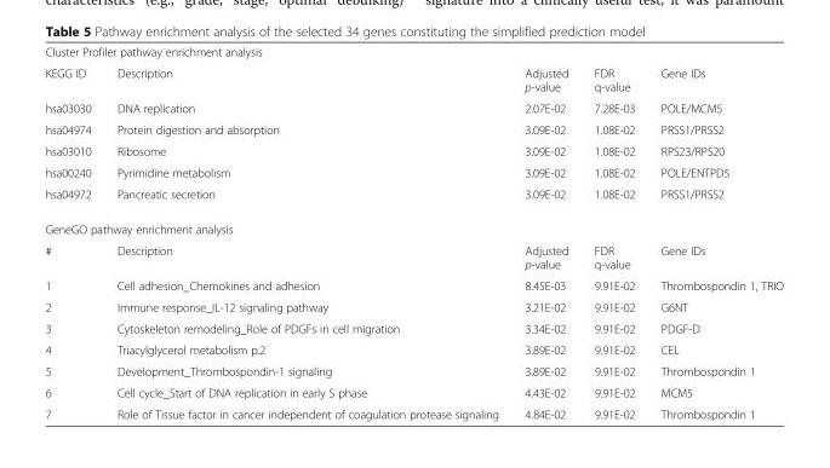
<table><tbody><tr><td colspan="5">Cluster Profiler pathway enrichment analysis</td></tr><tr><td>KEGG ID</td><td>Description</td><td>Adjusted p-value</td><td>FDR q-value</td><td>Gene IDs</td></tr><tr><td>hsa03030</td><td>DNA replication</td><td>2.07E-02</td><td>7.28E-03</td><td>POLE/MCM5</td></tr><tr><td>hsa04974</td><td>Protein digestion and absorption</td><td>3.09E-02</td><td>1.08E-02</td><td>PRSS1/PRSS2</td></tr><tr><td>hsa03010</td><td>Ribosome</td><td>3.09E-02</td><td>1.08E-02</td><td>RPS23/RPS20</td></tr><tr><td>hsa00240</td><td>Pyrimidine metabolism</td><td>3.09E-02</td><td>1.08E-02</td><td>POLE/ENTPD5</td></tr><tr><td>hsa04972</td><td>Pancreatic secretion</td><td>3.09E-02</td><td>1.08E-02</td><td>PRSS1/PRSS2</td></tr><tr><td colspan="5">GeneGO pathway enrichment analysis</td></tr><tr><td>#</td><td>Description</td><td>Adjusted p-value</td><td>FDR q-value</td><td>Gene IDs</td></tr><tr><td>1</td><td>Cell adhesion_Chemokines and adhesion</td><td>8.45E-03</td><td>9.91E-02</td><td>Thrombospondin 1, TRIO</td></tr><tr><td>2</td><td>Immune response_IL-12 signaling pathway</td><td>3.21E-02</td><td>9.91E-02</td><td>G6NT</td></tr><tr><td>3</td><td>Cytoskeleton remodeling_Role of PDGFs in cell migration</td><td>3.34E-02</td><td>9.91E-02</td><td>PDGF-D</td></tr><tr><td>4</td><td>Triacylglycerol metabolism p.2</td><td>3.89E-02</td><td>9.91E-02</td><td>CEL</td></tr><tr><td>5</td><td>Development_Thrombospondin-1 signaling</td><td>3.89E-02</td><td>9.91E-02</td><td>Thrombospondin 1</td></tr><tr><td>6</td><td>Cell cycle_Start of DNA replication in early S phase</td><td>4.43E-02</td><td>9.91E-02</td><td>MCM5</td></tr><tr><td>7</td><td>Role of Tissue factor in cancer independent of coagulation protease signaling</td><td>4.84E-02</td><td>9.91E-02</td><td>Thrombospondin 1</td></tr></tbody></table>